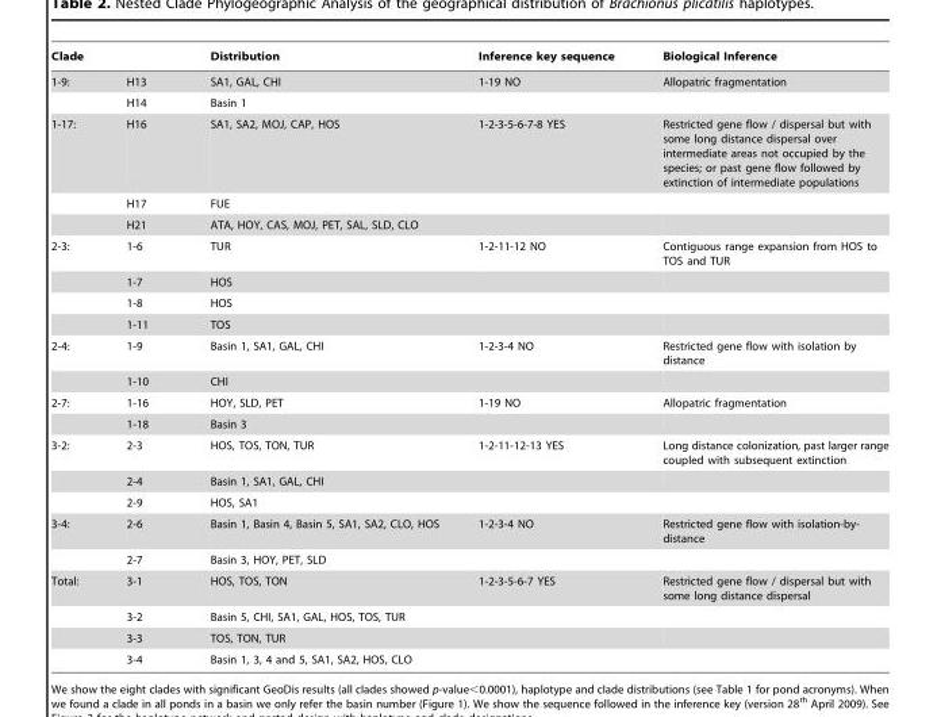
<table><thead><tr><td>Clade</td><td></td><td>Distribution</td><td>Inference key sequence</td><td>Biological Inference</td></tr></thead><tbody><tr><td rowspan="2">1-9:</td><td>H13</td><td>SA1, GAL, CHI</td><td>1-19 NO</td><td>Allopatric fragmentation</td></tr><tr><td>H14</td><td>Basin 1</td><td></td><td></td></tr><tr><td rowspan="3">1-17:</td><td>H16</td><td>SA1, SA2, MOJ, CAP, HOS</td><td>1-2-3-5-6-7-8 YES</td><td>Restricted gene flow / dispersal but with some long distance dispersal over intermediate areas not occupied by the species; or past gene flow followed by extinction of intermediate populations</td></tr><tr><td>H17</td><td>FUE</td><td></td><td></td></tr><tr><td>H21</td><td>ATA, HOY, CAS, MOJ, PET, SAL, SLD, CLO</td><td></td><td></td></tr><tr><td rowspan="4">2-3:</td><td>1-6</td><td>TUR</td><td>1-2-11-12 NO</td><td>Contiguous range expansion from HOS to TOS and TUR</td></tr><tr><td>1-7</td><td>HOS</td><td></td><td></td></tr><tr><td>1-8</td><td>HOS</td><td></td><td></td></tr><tr><td>1-11</td><td>TOS</td><td></td><td></td></tr><tr><td rowspan="2">2-4:</td><td>1-9</td><td>Basin 1, SA1, GAL, CHI</td><td>1-2-3-4 NO</td><td>Restricted gene flow with isolation by distance</td></tr><tr><td>1-10</td><td>CHI</td><td></td><td></td></tr><tr><td rowspan="2">2-7:</td><td>1-16</td><td>HOY, SLD, PET</td><td>1-19 NO</td><td>Allopatric fragmentation</td></tr><tr><td>1-18</td><td>Basin 3</td><td></td><td></td></tr><tr><td rowspan="3">3-2:</td><td>2-3</td><td>HOS, TOS, TON, TUR</td><td>1-2-11-12-13 YES</td><td>Long distance colonization, past larger range coupled with subsequent extinction</td></tr><tr><td>2-4</td><td>Basin 1, SA1, GAL, CHI</td><td></td><td></td></tr><tr><td>2-9</td><td>HOS, SA1</td><td></td><td></td></tr><tr><td rowspan="2">3-4:</td><td>2-6</td><td>Basin 1, Basin 4, Basin 5, SA1, SA2, CLO, HOS</td><td>1-2-3-4 NO</td><td>Restricted gene flow with isolation-by- distance</td></tr><tr><td>2-7</td><td>Basin 3, HOY, PET, SLD</td><td></td><td></td></tr><tr><td rowspan="4">Total:</td><td>3-1</td><td>HOS, TOS, TON</td><td>1-2-3-5-6-7 YES</td><td>Restricted gene flow / dispersal but with some long distance dispersal</td></tr><tr><td>3-2</td><td>Basin 5, CHI, SA1, GAL, HOS, TOS, TUR</td><td></td><td></td></tr><tr><td>3-3</td><td>TOS, TON, TUR</td><td></td><td></td></tr><tr><td>3-4</td><td>Basin 1, 3, 4 and 5, SA1, SA2, HOS, CLO</td><td></td><td></td></tr></tbody></table>